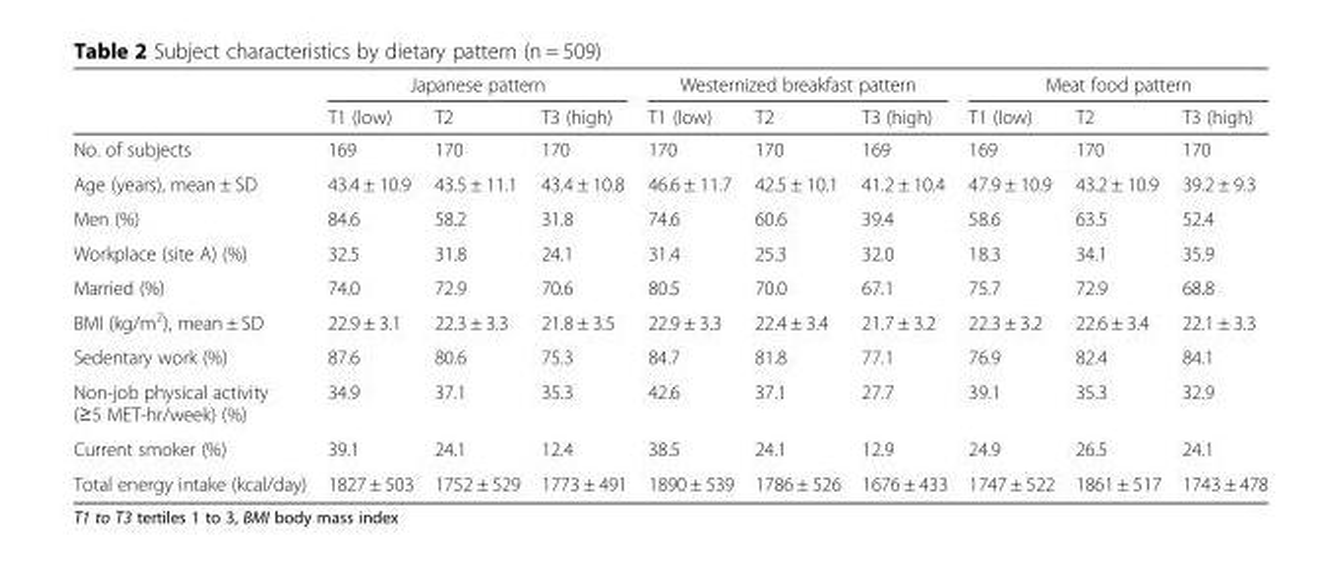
<table><thead><tr><td rowspan="2"></td><td colspan="3">Japanese pattern</td><td colspan="3">Westernized breakfast pattern</td><td colspan="3">Meat food pattern</td></tr><tr><td>T1 (low)</td><td>T2</td><td>T3 (high)</td><td>T1 (low)</td><td>T2</td><td>T3 (high)</td><td>T1 (low)</td><td>T2</td><td>T3 (high)</td></tr></thead><tbody><tr><td>No. of subjects</td><td>169</td><td>170</td><td>170</td><td>170</td><td>170</td><td>169</td><td>169</td><td>170</td><td>170</td></tr><tr><td>Age (years), mean ± SD</td><td>43.4 ± 10.9</td><td>43.5 ± 11.1</td><td>43.4 ± 10.8</td><td>46.6 ± 11.7</td><td>42.5 ± 10.1</td><td>41.2 ± 10.4</td><td>47.9 ± 10.9</td><td>43.2 ± 10.9</td><td>39.2 ± 9.3</td></tr><tr><td>Men (%)</td><td>84.6</td><td>58.2</td><td>31.8</td><td>74.6</td><td>60.6</td><td>39.4</td><td>58.6</td><td>63.5</td><td>52.4</td></tr><tr><td>Workplace (site A) (%)</td><td>32.5</td><td>31.8</td><td>24.1</td><td>31.4</td><td>25.3</td><td>32.0</td><td>18.3</td><td>34.1</td><td>35.9</td></tr><tr><td>Married (%)</td><td>74.0</td><td>72.9</td><td>70.6</td><td>80.5</td><td>70.0</td><td>67.1</td><td>75.7</td><td>72.9</td><td>68.8</td></tr><tr><td>BMI (kg/m<sup>2</sup>), mean ± SD</td><td>22.9 ± 3.1</td><td>22.3 ± 3.3</td><td>21.8 ± 3.5</td><td>22.9 ± 3.3</td><td>22.4 ± 3.4</td><td>21.7 ± 3.2</td><td>22.3 ± 3.2</td><td>22.6 ± 3.4</td><td>22.1 ± 3.3</td></tr><tr><td>Sedentary work (%)</td><td>87.6</td><td>80.6</td><td>75.3</td><td>84.7</td><td>81.8</td><td>77.1</td><td>76.9</td><td>82.4</td><td>84.1</td></tr><tr><td>Non-job physical activity (≥5 MET-hr/week) (%)</td><td>34.9</td><td>37.1</td><td>35.3</td><td>42.6</td><td>37.1</td><td>27.7</td><td>39.1</td><td>35.3</td><td>32.9</td></tr><tr><td>Current smoker (%)</td><td>39.1</td><td>24.1</td><td>12.4</td><td>38.5</td><td>24.1</td><td>12.9</td><td>24.9</td><td>26.5</td><td>24.1</td></tr><tr><td>Total energy intake (kcal/day)</td><td>1827 ± 503</td><td>1752 ± 529</td><td>1773 ± 491</td><td>1890 ± 539</td><td>1786 ± 526</td><td>1676 ± 433</td><td>1747 ± 522</td><td>1861 ± 517</td><td>1743 ± 478</td></tr></tbody></table>